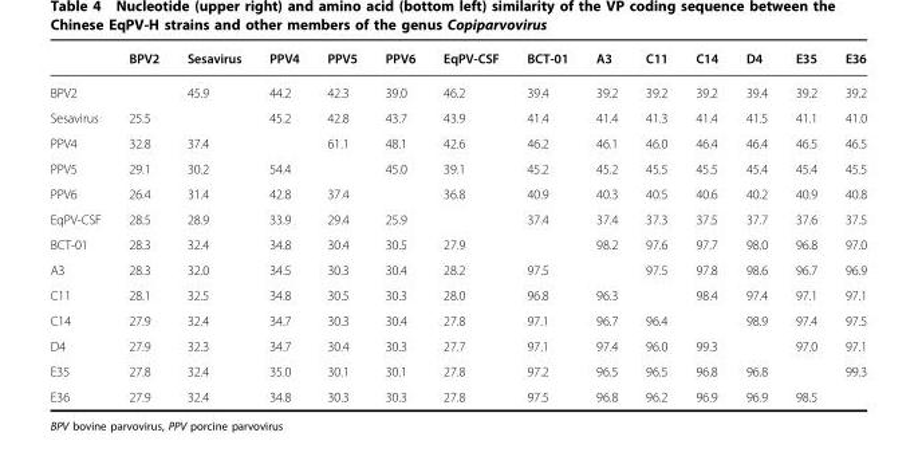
<table><thead><tr><td></td><td>BPV2</td><td>Sesavirus</td><td>PPV4</td><td>PPV5</td><td>PPV6</td><td>EqPV-CSF</td><td>BCT-01</td><td>A3</td><td>C11</td><td>C14</td><td>D4</td><td>E35</td><td>E36</td></tr></thead><tbody><tr><td>BPV2</td><td></td><td>45.9</td><td>44.2</td><td>42.3</td><td>39.0</td><td>46.2</td><td>39.4</td><td>39.2</td><td>39.2</td><td>39.2</td><td>39.4</td><td>39.2</td><td>39.2</td></tr><tr><td>Sesavirus</td><td>25.5</td><td></td><td>45.2</td><td>42.8</td><td>43.7</td><td>43.9</td><td>41.4</td><td>41.4</td><td>41.3</td><td>41.4</td><td>41.5</td><td>41.1</td><td>41.0</td></tr><tr><td>PPV4</td><td>32.8</td><td>37.4</td><td></td><td>61.1</td><td>48.1</td><td>42.6</td><td>46.2</td><td>46.1</td><td>46.0</td><td>46.4</td><td>46.4</td><td>46.5</td><td>46.5</td></tr><tr><td>PPV5</td><td>29.1</td><td>30.2</td><td>54.4</td><td></td><td>45.0</td><td>39.1</td><td>45.2</td><td>45.2</td><td>45.5</td><td>45.5</td><td>45.4</td><td>45.4</td><td>45.5</td></tr><tr><td>PPV6</td><td>26.4</td><td>31.4</td><td>42.8</td><td>37.4</td><td></td><td>36.8</td><td>40.9</td><td>40.3</td><td>40.5</td><td>40.6</td><td>40.2</td><td>40.9</td><td>40.8</td></tr><tr><td>EqPV-CSF</td><td>28.5</td><td>28.9</td><td>33.9</td><td>29.4</td><td>25.9</td><td></td><td>37.4</td><td>37.4</td><td>37.3</td><td>37.5</td><td>37.7</td><td>37.6</td><td>37.5</td></tr><tr><td>BCT-01</td><td>28.3</td><td>32.4</td><td>34.8</td><td>30.4</td><td>30.5</td><td>27.9</td><td></td><td>98.2</td><td>97.6</td><td>97.7</td><td>98.0</td><td>96.8</td><td>97.0</td></tr><tr><td>A3</td><td>28.3</td><td>32.0</td><td>34.5</td><td>30.3</td><td>30.4</td><td>28.2</td><td>97.5</td><td></td><td>97.5</td><td>97.8</td><td>98.6</td><td>96.7</td><td>96.9</td></tr><tr><td>C11</td><td>28.1</td><td>32.5</td><td>34.8</td><td>30.5</td><td>30.3</td><td>28.0</td><td>96.8</td><td>96.3</td><td></td><td>98.4</td><td>97.4</td><td>97.1</td><td>97.1</td></tr><tr><td>C14</td><td>27.9</td><td>32.4</td><td>34.7</td><td>30.3</td><td>30.4</td><td>27.8</td><td>97.1</td><td>96.7</td><td>96.4</td><td></td><td>98.9</td><td>97.4</td><td>97.5</td></tr><tr><td>D4</td><td>27.9</td><td>32.3</td><td>34.7</td><td>30.4</td><td>30.3</td><td>27.7</td><td>97.1</td><td>97.4</td><td>96.0</td><td>99.3</td><td></td><td>97.0</td><td>97.1</td></tr><tr><td>E35</td><td>27.8</td><td>32.4</td><td>35.0</td><td>30.1</td><td>30.1</td><td>27.8</td><td>97.2</td><td>96.5</td><td>96.5</td><td>96.8</td><td>96.8</td><td></td><td>99.3</td></tr><tr><td>E36</td><td>27.9</td><td>32.4</td><td>34.8</td><td>30.3</td><td>30.3</td><td>27.8</td><td>97.5</td><td>96.8</td><td>96.2</td><td>96.9</td><td>96.9</td><td>98.5</td><td></td></tr></tbody></table>